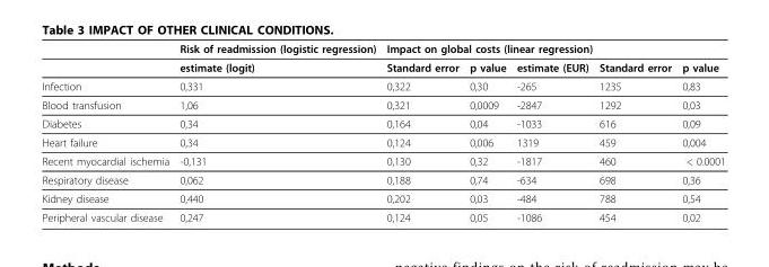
<table><thead><tr><td rowspan="2"></td><td rowspan="2">Risk of readmission (logistic regression) estimate (logit)</td><td colspan="5">Impact on global costs (linear regression)</td></tr><tr><td>Standard error</td><td>p value</td><td>estimate (EUR)</td><td>Standard error</td><td>p value</td></tr></thead><tbody><tr><td>Infection</td><td>0,331</td><td>0,322</td><td>0,30</td><td>-265</td><td>1235</td><td>0,83</td></tr><tr><td>Blood transfusion</td><td>1,06</td><td>0,321</td><td>0,0009</td><td>-2847</td><td>1292</td><td>0,03</td></tr><tr><td>Diabetes</td><td>0,34</td><td>0,164</td><td>0,04</td><td>-1033</td><td>616</td><td>0,09</td></tr><tr><td>Heart failure</td><td>0,34</td><td>0,124</td><td>0,006</td><td>1319</td><td>459</td><td>0,004</td></tr><tr><td>Recent myocardial ischemia</td><td>-0,131</td><td>0,130</td><td>0,32</td><td>-1817</td><td>460</td><td>&lt; 0.0001</td></tr><tr><td>Respiratory disease</td><td>0,062</td><td>0,188</td><td>0,74</td><td>-634</td><td>698</td><td>0,36</td></tr><tr><td>Kidney disease</td><td>0,440</td><td>0,202</td><td>0,03</td><td>-484</td><td>788</td><td>0,54</td></tr><tr><td>Peripheral vascular disease</td><td>0,247</td><td>0,124</td><td>0,05</td><td>-1086</td><td>454</td><td>0,02</td></tr></tbody></table>